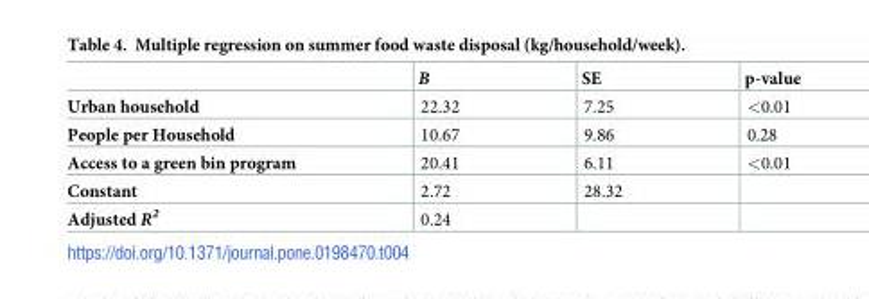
<table><thead><tr><td></td><td>B</td><td>SE</td><td>p-value</td></tr></thead><tbody><tr><td>Urban household</td><td>22.32</td><td>7.25</td><td>&lt;0.01</td></tr><tr><td>People per Household</td><td>10.67</td><td>9.86</td><td>0.28</td></tr><tr><td>Access to a green bin program</td><td>20.41</td><td>6.11</td><td>&lt;0.01</td></tr><tr><td>Constant</td><td>2.72</td><td>28.32</td><td></td></tr><tr><td>Adjusted R<sup>2</sup></td><td>0.24</td><td></td><td></td></tr></tbody></table>